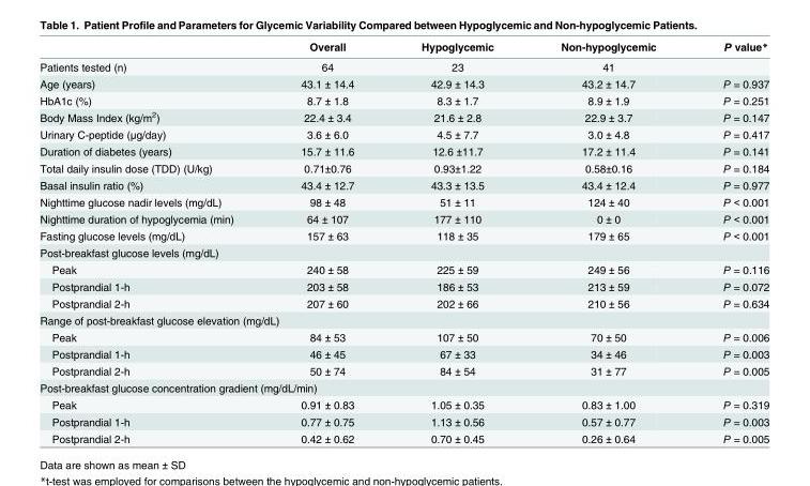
<table><thead><tr><td></td><td>Overall</td><td>Hypoglycemic</td><td>Non-hypoglycemic</td><td>P value*</td></tr></thead><tbody><tr><td>Patients tested (n)</td><td>64</td><td>23</td><td>41</td><td></td></tr><tr><td>Age (years)</td><td>43.1 ± 14.4</td><td>42.9 ± 14.3</td><td>43.2 ± 14.7</td><td>P = 0.937</td></tr><tr><td>HbA1c (%)</td><td>8.7 ± 1.8</td><td>8.3 ± 1.7</td><td>8.9 ± 1.9</td><td>P = 0.251</td></tr><tr><td>Body Mass Index (kg/m<sup>2</sup>)</td><td>22.4 ± 3.4</td><td>21.6 ± 2.8</td><td>22.9 ± 3.7</td><td>P = 0.147</td></tr><tr><td>Urinary C-peptide (μg/day)</td><td>3.6 ± 6.0</td><td>4.5 ± 7.7</td><td>3.0 ± 4.8</td><td>P = 0.417</td></tr><tr><td>Duration of diabetes (years)</td><td>15.7 ± 11.6</td><td>12.6 ±11.7</td><td>17.2 ± 11.4</td><td>P = 0.141</td></tr><tr><td>Total daily insulin dose (TDD) (U/kg)</td><td>0.71±0.76</td><td>0.93±1.22</td><td>0.58±0.16</td><td>P = 0.184</td></tr><tr><td>Basal insulin ratio (%)</td><td>43.4 ± 12.7</td><td>43.3 ± 13.5</td><td>43.4 ± 12.4</td><td>P = 0.977</td></tr><tr><td>Nighttime glucose nadir levels (mg/dL)</td><td>98 ± 48</td><td>51 ± 11</td><td>124 ± 40</td><td>P &lt; 0.001</td></tr><tr><td>Nighttime duration of hypoglycemia (min)</td><td>64 ± 107</td><td>177 ± 110</td><td>0 ± 0</td><td>P &lt; 0.001</td></tr><tr><td>Fasting glucose levels (mg/dL)</td><td>157 ± 63</td><td>118 ± 35</td><td>179 ± 65</td><td>P &lt; 0.001</td></tr><tr><td colspan="5">Post-breakfast glucose levels (mg/dL)</td></tr><tr><td>Peak</td><td>240 ± 58</td><td>225 ± 59</td><td>249 ± 56</td><td>P = 0.116</td></tr><tr><td>Postprandial 1-h</td><td>203 ± 58</td><td>186 ± 53</td><td>213 ± 59</td><td>P = 0.072</td></tr><tr><td>Postprandial 2-h</td><td>207 ± 60</td><td>202 ± 66</td><td>210 ± 56</td><td>P = 0.634</td></tr><tr><td colspan="5">Range of post-breakfast glucose elevation (mg/dL)</td></tr><tr><td>Peak</td><td>84 ± 53</td><td>107 ± 50</td><td>70 ± 50</td><td>P = 0.006</td></tr><tr><td>Postprandial 1-h</td><td>46 ± 45</td><td>67 ± 33</td><td>34 ± 46</td><td>P = 0.003</td></tr><tr><td>Postprandial 2-h</td><td>50 ± 74</td><td>84 ± 54</td><td>31 ± 77</td><td>P = 0.005</td></tr><tr><td colspan="5">Post-breakfast glucose concentration gradient (mg/dL/min)</td></tr><tr><td>Peak</td><td>0.91 ± 0.83</td><td>1.05 ± 0.35</td><td>0.83 ± 1.00</td><td>P = 0.319</td></tr><tr><td>Postprandial 1-h</td><td>0.77 ± 0.75</td><td>1.13 ± 0.56</td><td>0.57 ± 0.77</td><td>P = 0.003</td></tr><tr><td>Postprandial 2-h</td><td>0.42 ± 0.62</td><td>0.70 ± 0.45</td><td>0.26 ± 0.64</td><td>P = 0.005</td></tr></tbody></table>